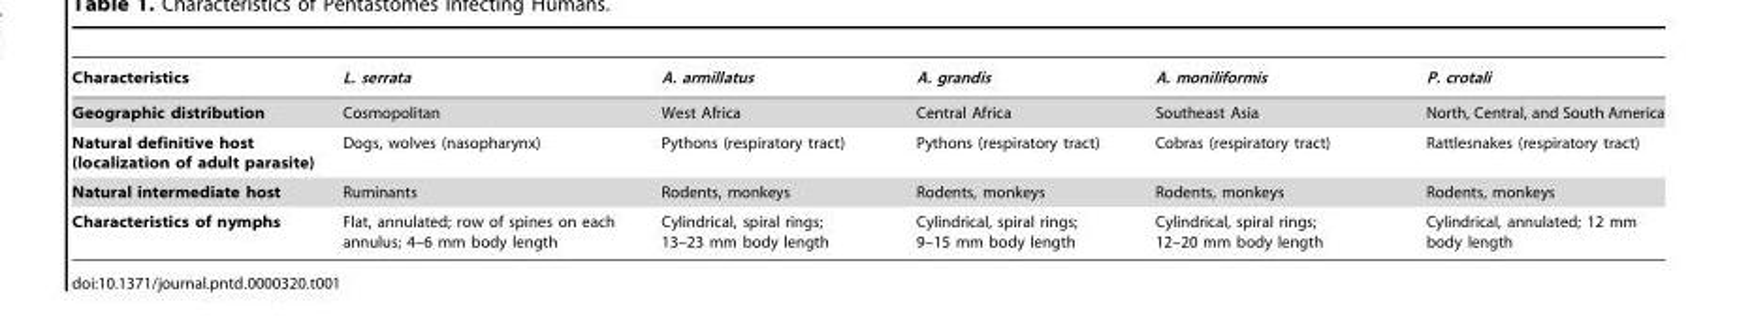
<table><thead><tr><td>Characteristics</td><td>L. serrata</td><td>A. armillatus</td><td>A. grandis</td><td>A. moniliformis</td><td>P. crotali</td></tr></thead><tbody><tr><td>Geographic distribution</td><td>Cosmopolitan</td><td>West Africa</td><td>Central Africa</td><td>Southeast Asia</td><td>North, Central, and South America</td></tr><tr><td>Natural definitive host (localization of adult parasite)</td><td>Dogs, wolves (nasopharynx)</td><td>Pythons (respiratory tract)</td><td>Pythons (respiratory tract)</td><td>Cobras (respiratory tract)</td><td>Rattlesnakes (respiratory tract)</td></tr><tr><td>Natural intermediate host</td><td>Ruminants</td><td>Rodents, monkeys</td><td>Rodents, monkeys</td><td>Rodents, monkeys</td><td>Rodents, monkeys</td></tr><tr><td>Characteristics of nymphs</td><td>Flat, annulated; row of spines on each annulus; 4–6 mm body length</td><td>Cylindrical, spiral rings; 13–23 mm body length</td><td>Cylindrical, spiral rings; 9–15 mm body length</td><td>Cylindrical, spiral rings; 12–20 mm body length</td><td>Cylindrical, annulated; 12 mm body length</td></tr></tbody></table>